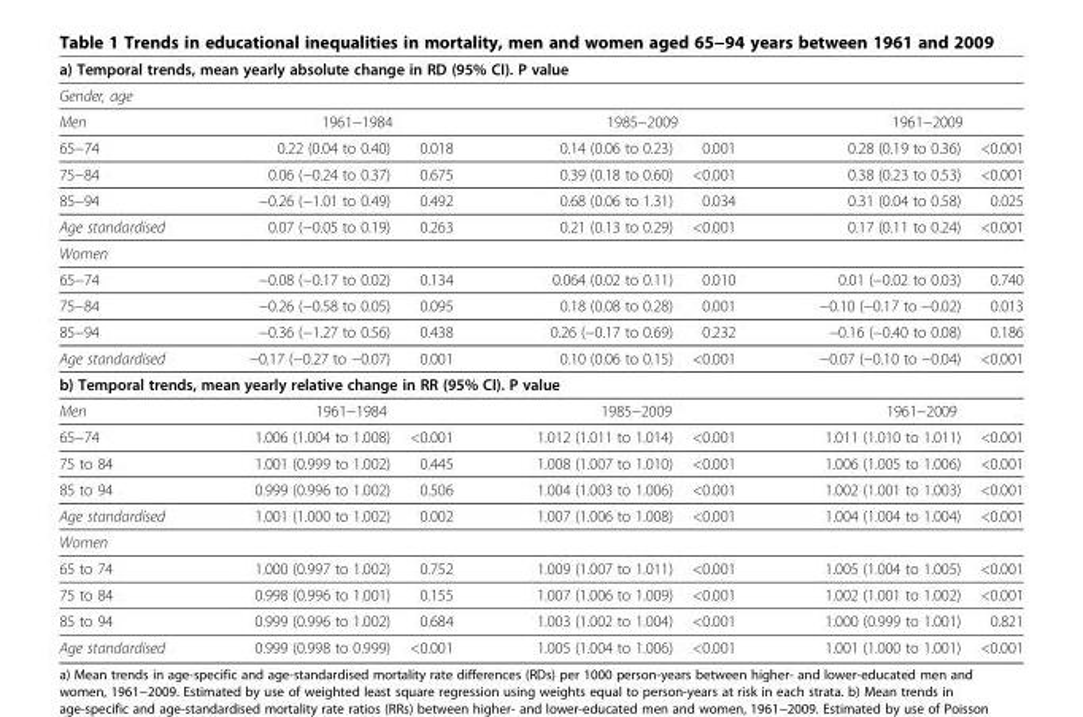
<table><thead><tr><td colspan="7">a) Temporal trends, mean yearly absolute change in RD (95% CI). P value</td></tr><tr><td rowspan="2">Gender, age Men</td><td colspan="2"></td><td colspan="2"></td><td colspan="2"></td></tr><tr><td>1961−1984</td><td></td><td>1985−2009</td><td></td><td>1961−2009</td><td></td></tr></thead><tbody><tr><td>65−74</td><td>0.22 (0.04 to 0.40)</td><td>0.018</td><td>0.14 (0.06 to 0.23)</td><td>0.001</td><td>0.28 (0.19 to 0.36)</td><td>&lt;0.001</td></tr><tr><td>75−84</td><td>0.06 (−0.24 to 0.37)</td><td>0.675</td><td>0.39 (0.18 to 0.60)</td><td>&lt;0.001</td><td>0.38 (0.23 to 0.53)</td><td>&lt;0.001</td></tr><tr><td>85−94</td><td>−0.26 (−1.01 to 0.49)</td><td>0.492</td><td>0.68 (0.06 to 1.31)</td><td>0.034</td><td>0.31 (0.04 to 0.58)</td><td>0.025</td></tr><tr><td>Age standardised</td><td>0.07 (−0.05 to 0.19)</td><td>0.263</td><td>0.21 (0.13 to 0.29)</td><td>&lt;0.001</td><td>0.17 (0.11 to 0.24)</td><td>&lt;0.001</td></tr><tr><td colspan="7">Women</td></tr><tr><td>65−74</td><td>−0.08 (−0.17 to 0.02)</td><td>0.134</td><td>0.064 (0.02 to 0.11)</td><td>0.010</td><td>0.01 (−0.02 to 0.03)</td><td>0.740</td></tr><tr><td>75−84</td><td>−0.26 (−0.58 to 0.05)</td><td>0.095</td><td>0.18 (0.08 to 0.28)</td><td>0.001</td><td>−0.10 (−0.17 to −0.02)</td><td>0.013</td></tr><tr><td>85−94</td><td>−0.36 (−1.27 to 0.56)</td><td>0.438</td><td>0.26 (−0.17 to 0.69)</td><td>0.232</td><td>−0.16 (−0.40 to 0.08)</td><td>0.186</td></tr><tr><td>Age standardised</td><td>−0.17 (−0.27 to −0.07)</td><td>0.001</td><td>0.10 (0.06 to 0.15)</td><td>&lt;0.001</td><td>−0.07 (−0.10 to −0.04)</td><td>&lt;0.001</td></tr><tr><td colspan="7">b) Temporal trends, mean yearly relative change in RR (95% CI). P value</td></tr><tr><td>Men</td><td>1961−1984</td><td></td><td>1985−2009</td><td></td><td>1961−2009</td><td></td></tr><tr><td>65−74</td><td>1.006 (1.004 to 1.008)</td><td>&lt;0.001</td><td>1.012 (1.011 to 1.014)</td><td>&lt;0.001</td><td>1.011 (1.010 to 1.011)</td><td>&lt;0.001</td></tr><tr><td>75 to 84</td><td>1.001 (0.999 to 1.002)</td><td>0.445</td><td>1.008 (1.007 to 1.010)</td><td>&lt;0.001</td><td>1.006 (1.005 to 1.006)</td><td>&lt;0.001</td></tr><tr><td>85 to 94</td><td>0.999 (0.996 to 1.002)</td><td>0.506</td><td>1.004 (1.003 to 1.006)</td><td>&lt;0.001</td><td>1.002 (1.001 to 1.003)</td><td>&lt;0.001</td></tr><tr><td>Age standardised</td><td>1.001 (1.000 to 1.002)</td><td>0.002</td><td>1.007 (1.006 to 1.008)</td><td>&lt;0.001</td><td>1.004 (1.004 to 1.004)</td><td>&lt;0.001</td></tr><tr><td colspan="7">Women</td></tr><tr><td>65 to 74</td><td>1.000 (0.997 to 1.002)</td><td>0.752</td><td>1.009 (1.007 to 1.011)</td><td>&lt;0.001</td><td>1.005 (1.004 to 1.005)</td><td>&lt;0.001</td></tr><tr><td>75 to 84</td><td>0.998 (0.996 to 1.001)</td><td>0.155</td><td>1.007 (1.006 to 1.009)</td><td>&lt;0.001</td><td>1.002 (1.001 to 1.002)</td><td>&lt;0.001</td></tr><tr><td>85 to 94</td><td>0.999 (0.996 to 1.002)</td><td>0.684</td><td>1.003 (1.002 to 1.004)</td><td>&lt;0.001</td><td>1.000 (0.999 to 1.001)</td><td>0.821</td></tr><tr><td>Age standardised</td><td>0.999 (0.998 to 0.999)</td><td>&lt;0.001</td><td>1.005 (1.004 to 1.006)</td><td>&lt;0.001</td><td>1.001 (1.000 to 1.001)</td><td>&lt;0.001</td></tr></tbody></table>